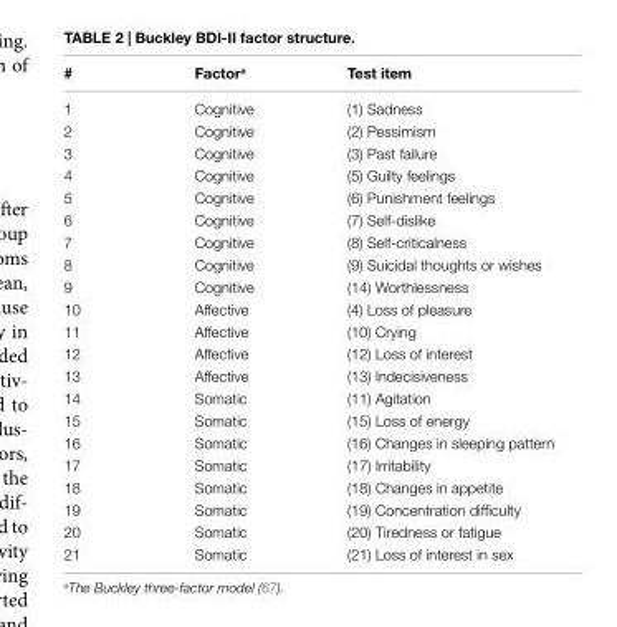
<table><thead><tr><td>#</td><td>Factor<sup>a</sup></td><td>Test item</td></tr></thead><tbody><tr><td>1</td><td>Cognitive</td><td>(1) Sadness</td></tr><tr><td>2</td><td>Cognitive</td><td>(2) Pessimism</td></tr><tr><td>3</td><td>Cognitive</td><td>(3) Past failure</td></tr><tr><td>4</td><td>Cognitive</td><td>(5) Guilty feelings</td></tr><tr><td>5</td><td>Cognitive</td><td>(6) Punishment feelings</td></tr><tr><td>6</td><td>Cognitive</td><td>(7) Self-dislike</td></tr><tr><td>7</td><td>Cognitive</td><td>(8) Self-criticalness</td></tr><tr><td>8</td><td>Cognitive</td><td>(9) Suicidal thoughts or wishes</td></tr><tr><td>9</td><td>Cognitive</td><td>(14) Worthlessness</td></tr><tr><td>10</td><td>Affective</td><td>(4) Loss of pleasure</td></tr><tr><td>11</td><td>Affective</td><td>(10) Crying</td></tr><tr><td>12</td><td>Affective</td><td>(12) Loss of interest</td></tr><tr><td>13</td><td>Affective</td><td>(13) Indecisiveness</td></tr><tr><td>14</td><td>Somatic</td><td>(11) Agitation</td></tr><tr><td>15</td><td>Somatic</td><td>(15) Loss of energy</td></tr><tr><td>16</td><td>Somatic</td><td>(16) Changes in sleeping pattern</td></tr><tr><td>17</td><td>Somatic</td><td>(17) Irritability</td></tr><tr><td>18</td><td>Somatic</td><td>(18) Changes in appetite</td></tr><tr><td>19</td><td>Somatic</td><td>(19) Concentration difficulty</td></tr><tr><td>20</td><td>Somatic</td><td>(20) Tiredness or fatigue</td></tr><tr><td>21</td><td>Somatic</td><td>(21) Loss of interest in sex</td></tr></tbody></table>